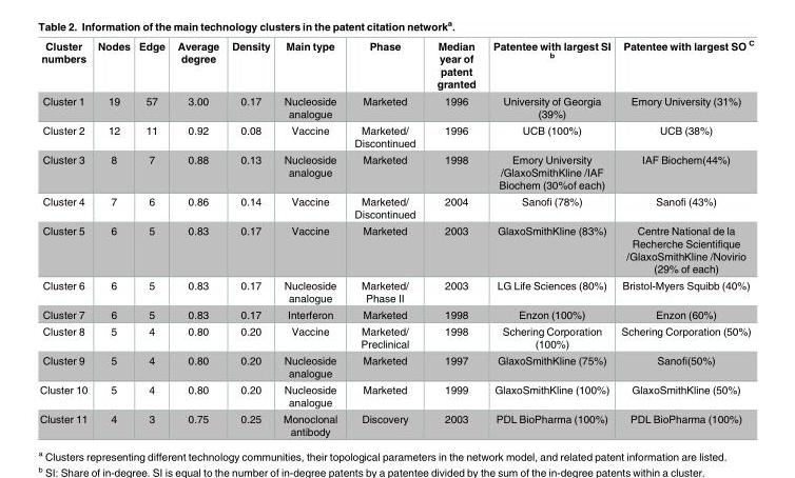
<table><thead><tr><td>Cluster numbers</td><td>Nodes</td><td>Edge</td><td>Average degree</td><td>Density</td><td>Main type</td><td>Phase</td><td>Median year of patent granted</td><td>Patentee with largest SI <sup>b</sup></td><td>Patentee with largest SO <sup>C</sup></td></tr></thead><tbody><tr><td>Cluster 1</td><td>19</td><td>57</td><td>3.00</td><td>0.17</td><td>Nucleoside analogue</td><td>Marketed</td><td>1996</td><td>University of Georgia (39%)</td><td>Emory University (31%)</td></tr><tr><td>Cluster 2</td><td>12</td><td>11</td><td>0.92</td><td>0.08</td><td>Vaccine</td><td>Marketed/ Discontinued</td><td>1996</td><td>UCB (100%)</td><td>UCB (38%)</td></tr><tr><td>Cluster 3</td><td>8</td><td>7</td><td>0.88</td><td>0.13</td><td>Nucleoside analogue</td><td>Marketed</td><td>1998</td><td>Emory University /GlaxoSmithKline /IAF Biochem (30%of each)</td><td>IAF Biochem(44%)</td></tr><tr><td>Cluster 4</td><td>7</td><td>6</td><td>0.86</td><td>0.14</td><td>Vaccine</td><td>Marketed/ Discontinued</td><td>2004</td><td>Sanofi (78%)</td><td>Sanofi (43%)</td></tr><tr><td>Cluster 5</td><td>6</td><td>5</td><td>0.83</td><td>0.17</td><td>Vaccine</td><td>Marketed</td><td>2003</td><td>GlaxoSmithKline (83%)</td><td>Centre National de la Recherche Scientifique /GlaxoSmithKline /Novirio (29% of each)</td></tr><tr><td>Cluster 6</td><td>6</td><td>5</td><td>0.83</td><td>0.17</td><td>Nucleoside analogue</td><td>Marketed/ Phase II</td><td>2003</td><td>LG Life Sciences (80%)</td><td>Bristol-Myers Squibb (40%)</td></tr><tr><td>Cluster 7</td><td>6</td><td>5</td><td>0.83</td><td>0.17</td><td>Interferon</td><td>Marketed</td><td>1998</td><td>Enzon (100%)</td><td>Enzon (60%)</td></tr><tr><td>Cluster 8</td><td>5</td><td>4</td><td>0.80</td><td>0.20</td><td>Vaccine</td><td>Marketed/ Preclinical</td><td>1998</td><td>Schering Corporation (100%)</td><td>Schering Corporation (50%)</td></tr><tr><td>Cluster 9</td><td>5</td><td>4</td><td>0.80</td><td>0.20</td><td>Nucleoside analogue</td><td>Marketed</td><td>1997</td><td>GlaxoSmithKline (75%)</td><td>Sanofi(50%)</td></tr><tr><td>Cluster 10</td><td>5</td><td>4</td><td>0.80</td><td>0.20</td><td>Nucleoside analogue</td><td>Marketed</td><td>1999</td><td>GlaxoSmithKline (100%)</td><td>GlaxoSmithKline (50%)</td></tr><tr><td>Cluster 11</td><td>4</td><td>3</td><td>0.75</td><td>0.25</td><td>Monoclonal antibody</td><td>Discovery</td><td>2003</td><td>PDL BioPharma (100%)</td><td>PDL BioPharma (100%)</td></tr></tbody></table>